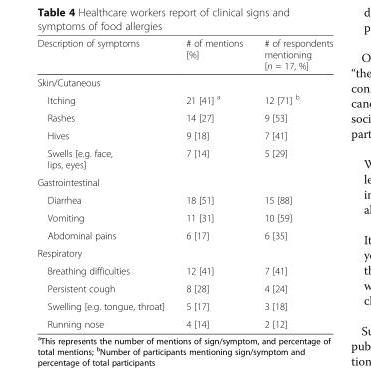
<table><thead><tr><td>Description of symptoms</td><td># of mentions [%]</td><td># of respondents mentioning [n = 17, %]</td></tr></thead><tbody><tr><td colspan="3">Skin/Cutaneous</td></tr><tr><td>Itching</td><td>21 [41] <sup>a</sup></td><td>12 [71] <sup>b</sup></td></tr><tr><td>Rashes</td><td>14 [27]</td><td>9 [53]</td></tr><tr><td>Hives</td><td>9 [18]</td><td>7 [41]</td></tr><tr><td>Swells [e.g. face, lips, eyes]</td><td>7 [14]</td><td>5 [29]</td></tr><tr><td colspan="3">Gastrointestinal</td></tr><tr><td>Diarrhea</td><td>18 [51]</td><td>15 [88]</td></tr><tr><td>Vomiting</td><td>11 [31]</td><td>10 [59]</td></tr><tr><td>Abdominal pains</td><td>6 [17]</td><td>6 [35]</td></tr><tr><td colspan="3">Respiratory</td></tr><tr><td>Breathing difficulties</td><td>12 [41]</td><td>7 [41]</td></tr><tr><td>Persistent cough</td><td>8 [28]</td><td>4 [24]</td></tr><tr><td>Swelling [e.g. tongue, throat]</td><td>5 [17]</td><td>3 [18]</td></tr><tr><td>Running nose</td><td>4 [14]</td><td>2 [12]</td></tr></tbody></table>